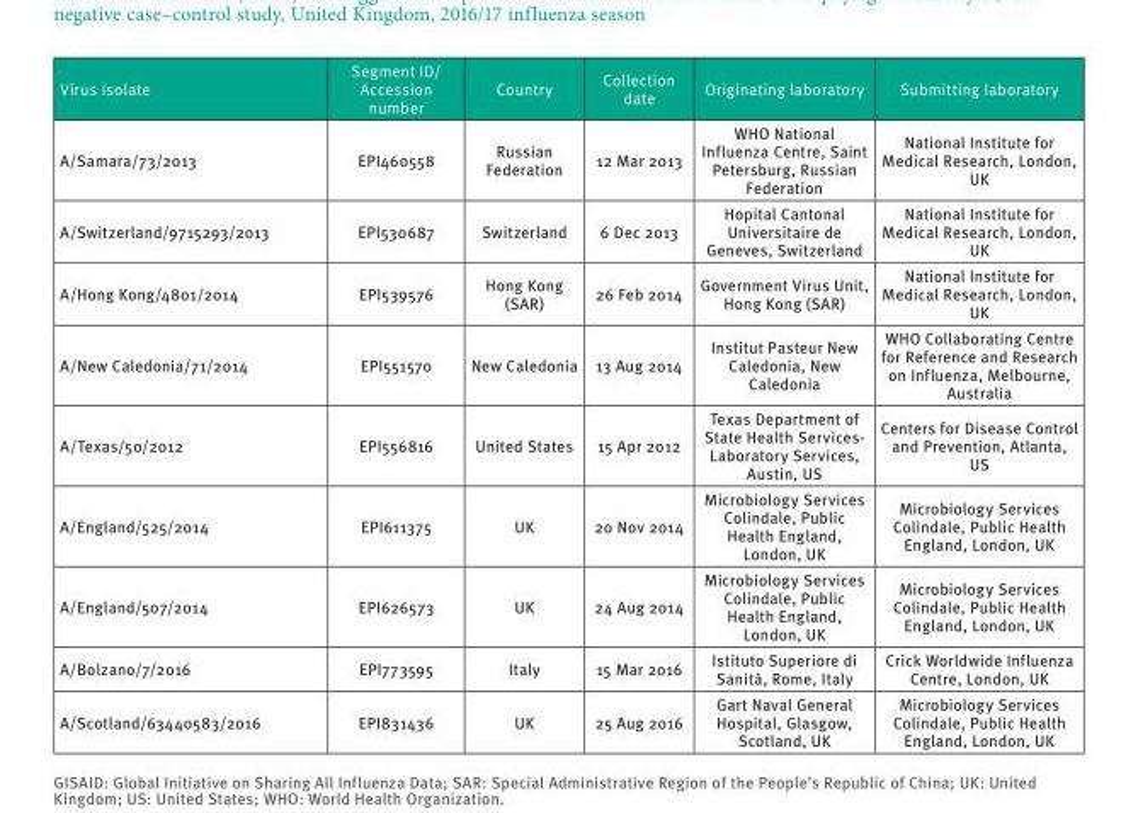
<table><thead><tr><td>Virus isolate</td><td>Segment ID/ Accession number</td><td>Country</td><td>Collection date</td><td>Originating laboratory</td><td>Submitting laboratory</td></tr></thead><tbody><tr><td>A/Samara/73/2013</td><td>EPI460558</td><td>Russian Federation</td><td>12 Mar 2013</td><td>WHO National Influenza Centre, Saint Petersburg, Russian Federation</td><td>National Institute for Medical Research, London, UK</td></tr><tr><td>A/Switzerland/9715293/2013</td><td>EPI530687</td><td>Switzerland</td><td>6 Dec 2013</td><td>Hopital Cantonal Universitaire de Geneves, Switzerland</td><td>National Institute for Medical Research, London, UK</td></tr><tr><td>A/Hong Kong/4801/2014</td><td>EPI539576</td><td>Hong Kong (SAR)</td><td>26 Feb 2014</td><td>Government Virus Unit, Hong Kong (SAR)</td><td>National Institute for Medical Research, London, UK</td></tr><tr><td>A/New Caledonia/71/2014</td><td>EPI551570</td><td>New Caledonia</td><td>13 Aug 2014</td><td>Institut Pasteur New Caledonia, New Caledonia</td><td>WHO Collaborating Centre for Reference and Research on Influenza, Melbourne, Australia</td></tr><tr><td>A/Texas/50/2012</td><td>EPI556816</td><td>United States</td><td>15 Apr 2012</td><td>Texas Department of State Health Services- Laboratory Services, Austin, US</td><td>Centers for Disease Control and Prevention, Atlanta, US</td></tr><tr><td>A/England/525/2014</td><td>EPI611375</td><td>UK</td><td>20 Nov 2014</td><td>Microbiology Services Colindale, Public Health England, London, UK</td><td>Microbiology Services Colindale, Public Health England, London, UK</td></tr><tr><td>A/England/507/2014</td><td>EPI626573</td><td>UK</td><td>24 Aug 2014</td><td>Microbiology Services Colindale, Public Health England, London, UK</td><td>Microbiology Services Colindale, Public Health England, London, UK</td></tr><tr><td>A/Bolzano/7/2016</td><td>EPI773595</td><td>Italy</td><td>15 Mar 2016</td><td>Istituto Superiore di Sanità, Rome, Italy</td><td>Crick Worldwide Influenza Centre, London, UK</td></tr><tr><td>A/Scotland/63440583/2016</td><td>EPI831436</td><td>UK</td><td>25 Aug 2016</td><td>Gart Naval General Hospital, Glasgow, Scotland, UK</td><td>Microbiology Services Colindale, Public Health England, London, UK</td></tr></tbody></table>